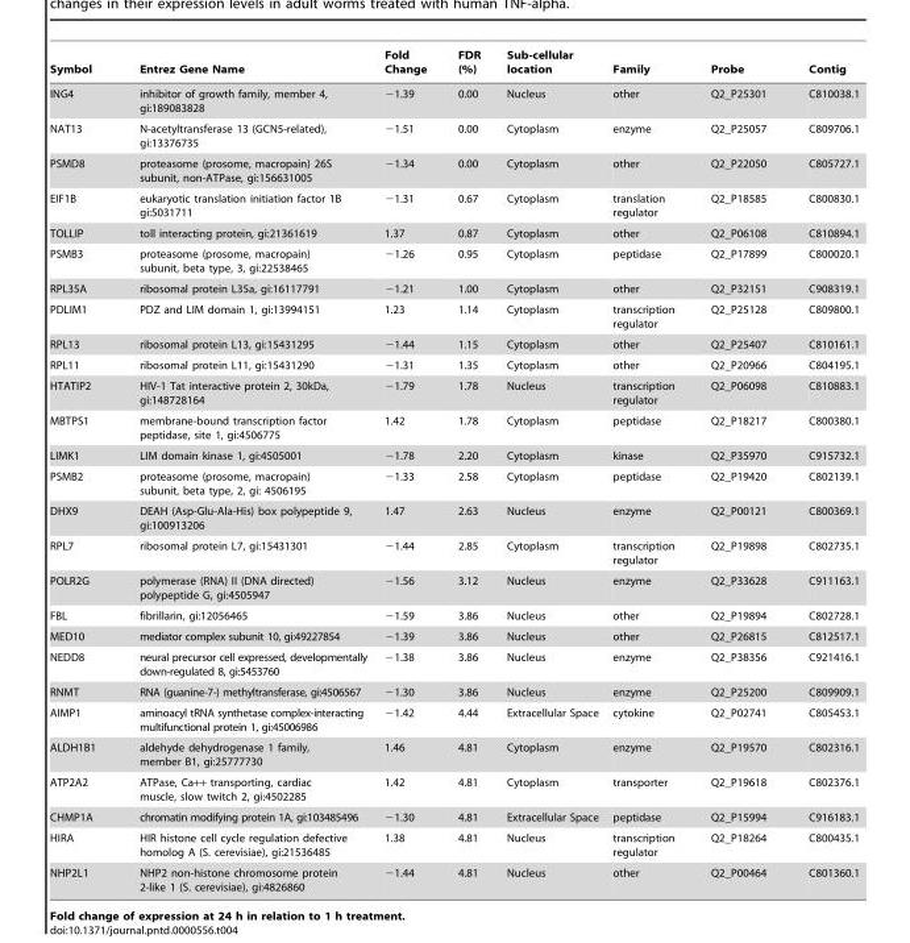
<table><thead><tr><td>Symbol</td><td>Entrez Gene Name</td><td>Fold Change</td><td>FDR (%)</td><td>Sub-cellular location</td><td>Family</td><td>Probe</td><td>Contig</td></tr></thead><tbody><tr><td>ING4</td><td>inhibitor of growth family, member 4, gi:189083828</td><td>−1.39</td><td>0.00</td><td>Nucleus</td><td>other</td><td>Q2_P25301</td><td>C810038.1</td></tr><tr><td>NAT13</td><td>N-acetyltransferase 13 (GCN5-related), gi:13376735</td><td>−1.51</td><td>0.00</td><td>Cytoplasm</td><td>enzyme</td><td>Q2_P25057</td><td>C809706.1</td></tr><tr><td>PSMD8</td><td>proteasome (prosome, macropain) 26S subunit, non-ATPase, gi:156631005</td><td>−1.34</td><td>0.00</td><td>Cytoplasm</td><td>other</td><td>Q2_P22050</td><td>C805727.1</td></tr><tr><td>EIF1B</td><td>eukaryotic translation initiation factor 1B gi:5031711</td><td>−1.31</td><td>0.67</td><td>Cytoplasm</td><td>translation regulator</td><td>Q2_P18585</td><td>C800830.1</td></tr><tr><td>TOLLIP</td><td>toll interacting protein, gi:21361619</td><td>1.37</td><td>0.87</td><td>Cytoplasm</td><td>other</td><td>Q2_P06108</td><td>C810894.1</td></tr><tr><td>PSMB3</td><td>proteasome (prosome, macropain) subunit, beta type, 3, gi:22538465</td><td>−1.26</td><td>0.95</td><td>Cytoplasm</td><td>peptidase</td><td>Q2_P17899</td><td>C800020.1</td></tr><tr><td>RPL35A</td><td>ribosomal protein L35a, gi:16117791</td><td>−1.21</td><td>1.00</td><td>Cytoplasm</td><td>other</td><td>Q2_P32151</td><td>C908319.1</td></tr><tr><td>PDLIM1</td><td>PDZ and LIM domain 1, gi:13994151</td><td>1.23</td><td>1.14</td><td>Cytoplasm</td><td>transcription regulator</td><td>Q2_P25128</td><td>C809800.1</td></tr><tr><td>RPL13</td><td>ribosomal protein L13, gi:15431295</td><td>−1.44</td><td>1.15</td><td>Cytoplasm</td><td>other</td><td>Q2_P25407</td><td>C810161.1</td></tr><tr><td>RPL11</td><td>ribosomal protein L11, gi:15431290</td><td>−1.31</td><td>1.35</td><td>Cytoplasm</td><td>other</td><td>Q2_P20966</td><td>C804195.1</td></tr><tr><td>HTATIP2</td><td>HIV-1 Tat interactive protein 2, 30kDa, gi:148728164</td><td>−1.79</td><td>1.78</td><td>Nucleus</td><td>transcription regulator</td><td>Q2_P06098</td><td>C810883.1</td></tr><tr><td>MBTPS1</td><td>membrane-bound transcription factor peptidase, site 1, gi:4506775</td><td>1.42</td><td>1.78</td><td>Cytoplasm</td><td>peptidase</td><td>Q2_P18217</td><td>C800380.1</td></tr><tr><td>LIMK1</td><td>LIM domain kinase 1, gi:4505001</td><td>−1.78</td><td>2.20</td><td>Cytoplasm</td><td>kinase</td><td>Q2_P35970</td><td>C915732.1</td></tr><tr><td>PSMB2</td><td>proteasome (prosome, macropain) subunit, beta type, 2, gi: 4506195</td><td>−1.33</td><td>2.58</td><td>Cytoplasm</td><td>peptidase</td><td>Q2_P19420</td><td>C802139.1</td></tr><tr><td>DHX9</td><td>DEAH (Asp-Glu-Ala-His) box polypeptide 9, gi:100913206</td><td>1.47</td><td>2.63</td><td>Nucleus</td><td>enzyme</td><td>Q2_P00121</td><td>C800369.1</td></tr><tr><td>RPL7</td><td>ribosomal protein L7, gi:15431301</td><td>−1.44</td><td>2.85</td><td>Cytoplasm</td><td>transcription regulator</td><td>Q2_P19898</td><td>C802735.1</td></tr><tr><td>POLR2G</td><td>polymerase (RNA) II (DNA directed) polypeptide G, gi:4505947</td><td>−1.56</td><td>3.12</td><td>Nucleus</td><td>enzyme</td><td>Q2_P33628</td><td>C911163.1</td></tr><tr><td>FBL</td><td>fibrillarin, gi:12056465</td><td>−1.59</td><td>3.86</td><td>Nucleus</td><td>other</td><td>Q2_P19894</td><td>C802728.1</td></tr><tr><td>MED10</td><td>mediator complex subunit 10, gi:49227854</td><td>−1.39</td><td>3.86</td><td>Nucleus</td><td>other</td><td>Q2_P26815</td><td>C812517.1</td></tr><tr><td>NEDD8</td><td>neural precursor cell expressed, developmentally down-regulated 8, gi:5453760</td><td>−1.38</td><td>3.86</td><td>Nucleus</td><td>enzyme</td><td>Q2_P38356</td><td>C921416.1</td></tr><tr><td>RNMT</td><td>RNA (guanine-7-) methyltransferase, gi:4506567</td><td>−1.30</td><td>3.86</td><td>Nucleus</td><td>enzyme</td><td>Q2_P25200</td><td>C809909.1</td></tr><tr><td>AIMP1</td><td>aminoacyl tRNA synthetase complex-interacting multifunctional protein 1, gi:45006986</td><td>−1.42</td><td>4.44</td><td>Extracellular Space</td><td>cytokine</td><td>Q2_P02741</td><td>C805453.1</td></tr><tr><td>ALDH1B1</td><td>aldehyde dehydrogenase 1 family, member B1, gi:25777730</td><td>1.46</td><td>4.81</td><td>Cytoplasm</td><td>enzyme</td><td>Q2_P19570</td><td>C802316.1</td></tr><tr><td>ATP2A2</td><td>ATPase, Ca++ transporting, cardiac muscle, slow twitch 2, gi:4502285</td><td>1.42</td><td>4.81</td><td>Cytoplasm</td><td>transporter</td><td>Q2_P19618</td><td>C802376.1</td></tr><tr><td>CHMP1A</td><td>chromatin modifying protein 1A, gi:103485496</td><td>−1.30</td><td>4.81</td><td>Extracellular Space</td><td>peptidase</td><td>Q2_P15994</td><td>C916183.1</td></tr><tr><td>HIRA</td><td>HIR histone cell cycle regulation defective homolog A (S. cerevisiae), gi:21536485</td><td>1.38</td><td>4.81</td><td>Nucleus</td><td>transcription regulator</td><td>Q2_P18264</td><td>C800435.1</td></tr><tr><td>NHP2L1</td><td>NHP2 non-histone chromosome protein 2-like 1 (S. cerevisiae), gi:4826860</td><td>−1.44</td><td>4.81</td><td>Nucleus</td><td>other</td><td>Q2_P00464</td><td>C801360.1</td></tr></tbody></table>